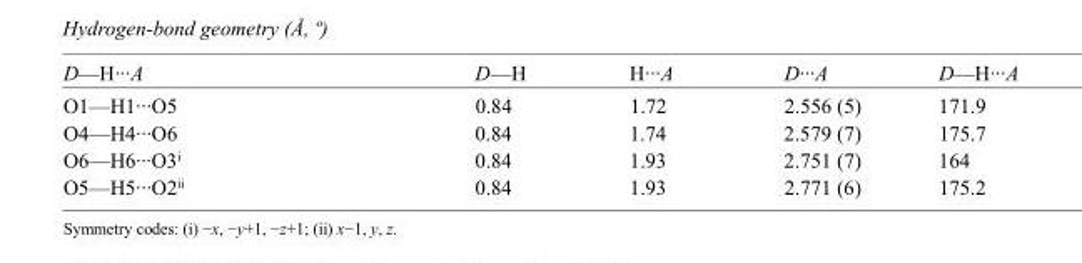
<table><tbody><tr><td>D—H···A</td><td>D—H</td><td>H···A</td><td>D···A</td><td>D—H···A</td></tr><tr><td>O1—H1···O5</td><td>0.84</td><td>1.72</td><td>2.556 (5)</td><td>171.9</td></tr><tr><td>O4—H4···O6</td><td>0.84</td><td>1.74</td><td>2.579 (7)</td><td>175.7</td></tr><tr><td>O6—H6···O3<sup>i</sup></td><td>0.84</td><td>1.93</td><td>2.751 (7)</td><td>164</td></tr><tr><td>O5—H5···O2<sup>ii</sup></td><td>0.84</td><td>1.93</td><td>2.771 (6)</td><td>175.2</td></tr></tbody></table>